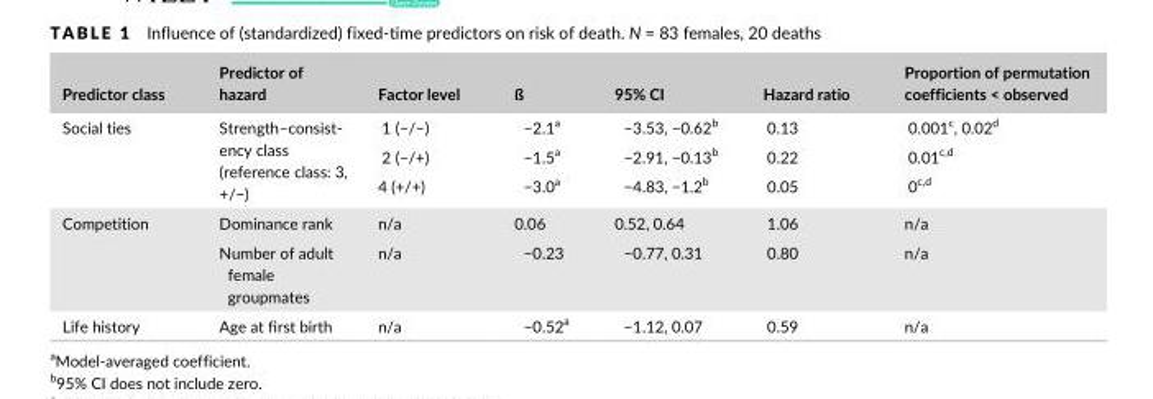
<table><thead><tr><td>Predictor class</td><td>Predictor of hazard</td><td>Factor level</td><td>ß</td><td>95% CI</td><td>Hazard ratio</td><td>Proportion of permutation coefficients &lt; observed</td></tr></thead><tbody><tr><td rowspan="3">Social ties</td><td rowspan="3">Strength–consist- ency class (reference class: 3, +/−)</td><td>1 (−/−)</td><td>−2.1<sup>a</sup></td><td>−3.53, −0.62<sup>b</sup></td><td>0.13</td><td>0.001<sup>c</sup>, 0.02<sup>d</sup></td></tr><tr><td>2 (−/+)</td><td>−1.5<sup>a</sup></td><td>−2.91, −0.13<sup>b</sup></td><td>0.22</td><td>0.01<sup>c</sup>,<sup>d</sup></td></tr><tr><td>4 (+/+)</td><td>−3.0<sup>a</sup></td><td>−4.83, −1.2<sup>b</sup></td><td>0.05</td><td>0<sup>c</sup>,<sup>d</sup></td></tr><tr><td rowspan="2">Competition</td><td>Dominance rank</td><td>n/a</td><td>0.06</td><td>0.52, 0.64</td><td>1.06</td><td>n/a</td></tr><tr><td>Number of adult female groupmates</td><td>n/a</td><td>−0.23</td><td>−0.77, 0.31</td><td>0.80</td><td>n/a</td></tr><tr><td>Life history</td><td>Age at first birth</td><td>n/a</td><td>−0.52<sup>a</sup></td><td>−1.12, 0.07</td><td>0.59</td><td>n/a</td></tr></tbody></table>